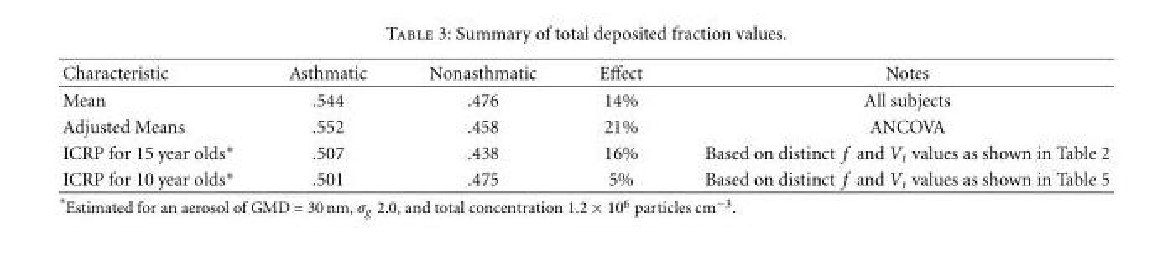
<table><thead><tr><td>Characteristic</td><td>Asthmatic</td><td>Nonasthmatic</td><td>Effect</td><td>Notes</td></tr></thead><tbody><tr><td>Mean</td><td>.544</td><td>.476</td><td>14%</td><td>All subjects</td></tr><tr><td>Adjusted Means</td><td>.552</td><td>.458</td><td>21%</td><td>ANCOVA</td></tr><tr><td>ICRP for 15 year olds∗</td><td>.507</td><td>.438</td><td>16%</td><td>Based on distinct f and V<sub>t</sub> values as shown in Table 2</td></tr><tr><td>ICRP for 10 year olds∗</td><td>.501</td><td>.475</td><td>5%</td><td>Based on distinct f and V<sub>t</sub> values as shown in Table 5</td></tr></tbody></table>